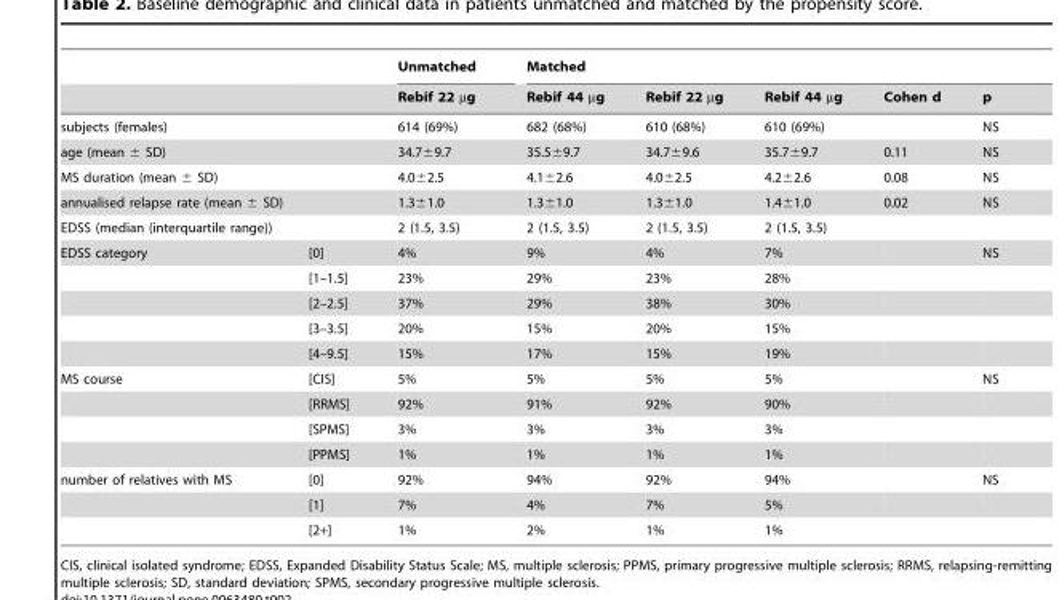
<table><thead><tr><td rowspan="2"></td><td rowspan="2"></td><td rowspan="2">Unmatched Rebif 22 µg</td><td colspan="5">Matched</td></tr><tr><td>Rebif 44 µg</td><td>Rebif 22 µg</td><td>Rebif 44 µg</td><td>Cohen d</td><td>p</td></tr></thead><tbody><tr><td>subjects (females)</td><td></td><td>614 (69%)</td><td>682 (68%)</td><td>610 (68%)</td><td>610 (69%)</td><td></td><td>NS</td></tr><tr><td>age (mean ± SD)</td><td></td><td>34.7±9.7</td><td>35.5±9.7</td><td>34.7±9.6</td><td>35.7±9.7</td><td>0.11</td><td>NS</td></tr><tr><td>MS duration (mean ± SD)</td><td></td><td>4.0±2.5</td><td>4.1±2.6</td><td>4.0±2.5</td><td>4.2±2.6</td><td>0.08</td><td>NS</td></tr><tr><td>annualised relapse rate (mean ± SD)</td><td></td><td>1.3±1.0</td><td>1.3±1.0</td><td>1.3±1.0</td><td>1.4±1.0</td><td>0.02</td><td>NS</td></tr><tr><td>EDSS (median (interquartile range))</td><td></td><td>2 (1.5, 3.5)</td><td>2 (1.5, 3.5)</td><td>2 (1.5, 3.5)</td><td>2 (1.5, 3.5)</td><td></td><td></td></tr><tr><td rowspan="5">EDSS category</td><td>[0]</td><td>4%</td><td>9%</td><td>4%</td><td>7%</td><td></td><td>NS</td></tr><tr><td>[1–1.5]</td><td>23%</td><td>29%</td><td>23%</td><td>28%</td><td></td><td></td></tr><tr><td>[2–2.5]</td><td>37%</td><td>29%</td><td>38%</td><td>30%</td><td></td><td></td></tr><tr><td>[3–3.5]</td><td>20%</td><td>15%</td><td>20%</td><td>15%</td><td></td><td></td></tr><tr><td>[4–9.5]</td><td>15%</td><td>17%</td><td>15%</td><td>19%</td><td></td><td></td></tr><tr><td rowspan="4">MS course</td><td>[CIS]</td><td>5%</td><td>5%</td><td>5%</td><td>5%</td><td></td><td>NS</td></tr><tr><td>[RRMS]</td><td>92%</td><td>91%</td><td>92%</td><td>90%</td><td></td><td></td></tr><tr><td>[SPMS]</td><td>3%</td><td>3%</td><td>3%</td><td>3%</td><td></td><td></td></tr><tr><td>[PPMS]</td><td>1%</td><td>1%</td><td>1%</td><td>1%</td><td></td><td></td></tr><tr><td rowspan="3">number of relatives with MS</td><td>[0]</td><td>92%</td><td>94%</td><td>92%</td><td>94%</td><td></td><td>NS</td></tr><tr><td>[1]</td><td>7%</td><td>4%</td><td>7%</td><td>5%</td><td></td><td></td></tr><tr><td>[2+]</td><td>1%</td><td>2%</td><td>1%</td><td>1%</td><td></td><td></td></tr></tbody></table>